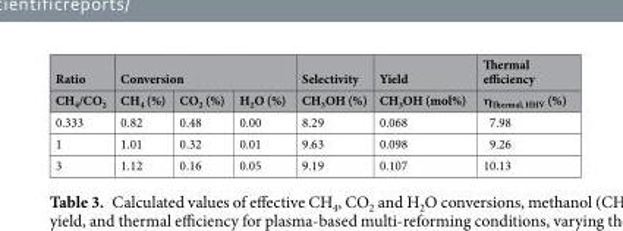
<table><thead><tr><td rowspan="2">Ratio CH<sub>4</sub>/CO<sub>2</sub></td><td colspan="3">Conversion</td><td rowspan="2">Selectivity CH<sub>3</sub>OH (%)</td><td rowspan="2">Yield CH<sub>3</sub>OH (mol%)</td><td rowspan="2">Thermal efficiency η<sub>Thermal, HHV</sub> (%)</td></tr><tr><td>CH<sub>4</sub> (%)</td><td>CO<sub>2</sub> (%)</td><td>H<sub>2</sub>O (%)</td></tr></thead><tbody><tr><td>0.333</td><td>0.82</td><td>0.48</td><td>0.00</td><td>8.29</td><td>0.068</td><td>7.98</td></tr><tr><td>1</td><td>1.01</td><td>0.32</td><td>0.01</td><td>9.63</td><td>0.098</td><td>9.26</td></tr><tr><td>3</td><td>1.12</td><td>0.16</td><td>0.05</td><td>9.19</td><td>0.107</td><td>10.13</td></tr></tbody></table>